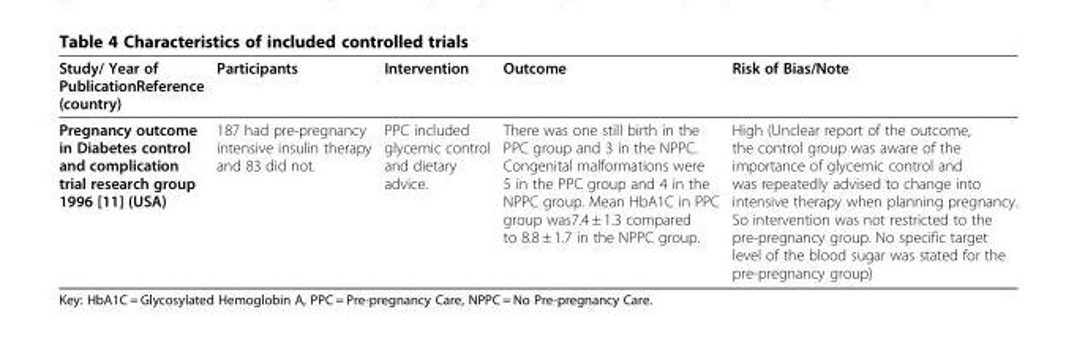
<table><thead><tr><td>Study/ Year of PublicationReference (country)</td><td>Participants</td><td>Intervention</td><td>Outcome</td><td>Risk of Bias/Note</td></tr></thead><tbody><tr><td>Pregnancy outcome in Diabetes control and complication trial research group 1996 [11] (USA)</td><td>187 had pre-pregnancy intensive insulin therapy and 83 did not.</td><td>PPC included glycemic control and dietary advice.</td><td>There was one still birth in the PPC group and 3 in the NPPC. Congenital malformations were 5 in the PPC group and 4 in the NPPC group. Mean HbA1C in PPC group was7.4 ± 1.3 compared to 8.8 ± 1.7 in the NPPC group.</td><td>High (Unclear report of the outcome, the control group was aware of the importance of glycemic control and was repeatedly advised to change into intensive therapy when planning pregnancy. So intervention was not restricted to the pre-pregnancy group. No specific target level of the blood sugar was stated for the pre-pregnancy group)</td></tr></tbody></table>